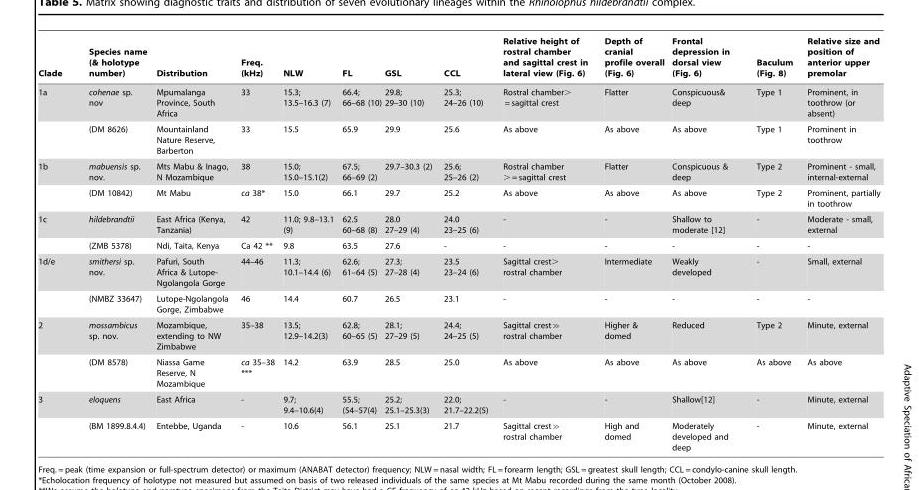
<table><thead><tr><td>Clade</td><td>Species name (&amp; holotype number)</td><td>Distribution</td><td>Freq. (kHz)</td><td>NLW</td><td>FL</td><td>GSL</td><td>CCL</td><td>Relative height of rostral chamber and sagittal crest in lateral view (Fig. 6)</td><td>Depth of cranial profile overall (Fig. 6)</td><td>Frontal depression in dorsal view (Fig. 6)</td><td>Baculum (Fig. 8)</td><td>Relative size and position of anterior upper premolar</td></tr></thead><tbody><tr><td rowspan="2">1a</td><td>cohenae sp. nov</td><td>Mpumalanga Province, South Africa</td><td>33</td><td>15.3; 13.5–16.3 (7)</td><td>66.4; 66–68 (10)</td><td>29.8; 29–30 (10)</td><td>25.3; 24–26 (10)</td><td>Rostral chamber&gt; = sagittal crest</td><td>Flatter</td><td>Conspicuous&amp; deep</td><td>Type 1</td><td>Prominent, in toothrow (or absent)</td></tr><tr><td>(DM 8626)</td><td>Mountainland Nature Reserve, Barberton</td><td>33</td><td>15.5</td><td>65.9</td><td>29.9</td><td>25.6</td><td>As above</td><td>As above</td><td>As above</td><td>Type 1</td><td>Prominent in toothrow</td></tr><tr><td rowspan="2">1b</td><td>mabuensis sp. nov.</td><td>Mts Mabu &amp; Inago, N Mozambique</td><td>38</td><td>15.0; 15.0–15.1(2)</td><td>67.5; 66–69 (2)</td><td>29.7–30.3 (2)</td><td>25.6; 25–26 (2)</td><td>Rostral chamber &gt; = sagittal crest</td><td>Flatter</td><td>Conspicuous &amp; deep</td><td>Type 2</td><td>Prominent - small, internal-external</td></tr><tr><td>(DM 10842)</td><td>Mt Mabu</td><td>ca 38*</td><td>15.0</td><td>66.1</td><td>29.7</td><td>25.2</td><td>As above</td><td>As above</td><td>As above</td><td>Type 2</td><td>Prominent, partially in toothrow</td></tr><tr><td rowspan="2">1c</td><td>hildebrandtii</td><td>East Africa (Kenya, Tanzania)</td><td>42</td><td>11.0; 9.8–13.1 (9)</td><td>62.5 60–68 (8)</td><td>28.0 27–29 (4)</td><td>24.0 23–25 (6)</td><td>-</td><td>-</td><td>Shallow to moderate [12]</td><td>-</td><td>Moderate - small, external</td></tr><tr><td>(ZMB 5378)</td><td>Ndi, Taita, Kenya</td><td>Ca 42 **</td><td>9.8</td><td>63.5</td><td>27.6</td><td>-</td><td>-</td><td>-</td><td>-</td><td>-</td><td>-</td></tr><tr><td rowspan="2">1d/e</td><td>smithersi sp. nov.</td><td>Pafuri, South Africa &amp; Lutope- Ngolangola Gorge</td><td>44–46</td><td>11.3; 10.1–14.4 (6)</td><td>62.6; 61–64 (5)</td><td>27.3; 27–28 (4)</td><td>23.5 23–24 (6)</td><td>Sagittal crest&gt; rostral chamber</td><td>Intermediate</td><td>Weakly developed</td><td>-</td><td>Small, external</td></tr><tr><td>(NMBZ 33647)</td><td>Lutope-Ngolangola Gorge, Zimbabwe</td><td>46</td><td>14.4</td><td>60.7</td><td>26.5</td><td>23.1</td><td>-</td><td>-</td><td>-</td><td>-</td><td>-</td></tr><tr><td rowspan="2">2</td><td>mossambicus sp. nov.</td><td>Mozambique, extending to NW Zimbabwe</td><td>35–38</td><td>13.5; 12.9–14.2(3)</td><td>62.8; 60–65 (5)</td><td>28.1; 27–29 (5)</td><td>24.4; 24–25 (5)</td><td>Sagittal crest≫ rostral chamber</td><td>Higher &amp; domed</td><td>Reduced</td><td>Type 2</td><td>Minute, external</td></tr><tr><td>(DM 8578)</td><td>Niassa Game Reserve, N Mozambique</td><td>ca 35–38 ***</td><td>14.2</td><td>63.9</td><td>28.5</td><td>25.0</td><td>As above</td><td>As above</td><td>As above</td><td>As above</td><td>As above</td></tr><tr><td rowspan="2">3</td><td>eloquens</td><td>East Africa</td><td>-</td><td>9.7; 9.4–10.6(4)</td><td>55.5; (54–57(4)</td><td>25.2; 25.1–25.3(3)</td><td>22.0; 21.7–22.2(5)</td><td>-</td><td>-</td><td>Shallow[12]</td><td>-</td><td>Minute, external</td></tr><tr><td>(BM 1899.8.4.4)</td><td>Entebbe, Uganda</td><td>-</td><td>10.6</td><td>56.1</td><td>25.1</td><td>21.7</td><td>Sagittal crest≫ rostral chamber</td><td>High and domed</td><td>Moderately developed and deep</td><td>-</td><td>Minute, external</td></tr></tbody></table>